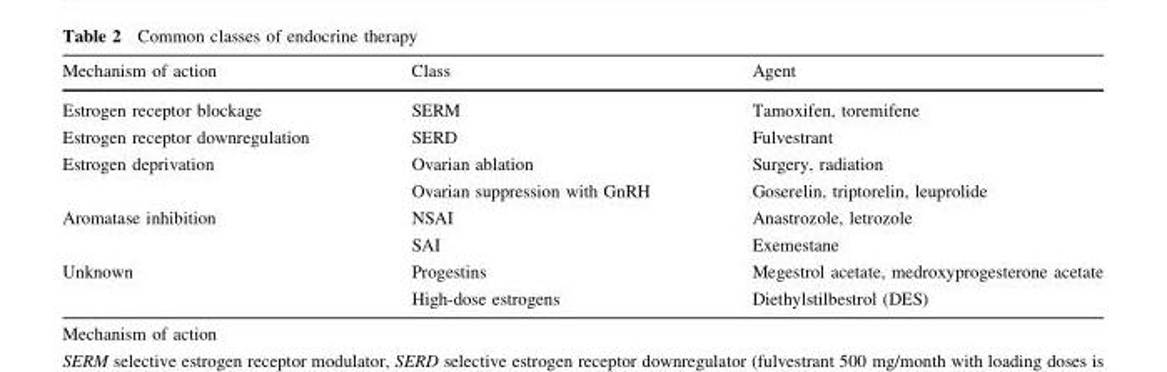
<table><thead><tr><td>Mechanism of action</td><td>Class</td><td>Agent</td></tr></thead><tbody><tr><td>Estrogen receptor blockage</td><td>SERM</td><td>Tamoxifen, toremifene</td></tr><tr><td>Estrogen receptor downregulation</td><td>SERD</td><td>Fulvestrant</td></tr><tr><td rowspan="2">Estrogen deprivation</td><td>Ovarian ablation</td><td>Surgery, radiation</td></tr><tr><td>Ovarian suppression with GnRH</td><td>Goserelin, triptorelin, leuprolide</td></tr><tr><td rowspan="2">Aromatase inhibition</td><td>NSAI</td><td>Anastrozole, letrozole</td></tr><tr><td>SAI</td><td>Exemestane</td></tr><tr><td rowspan="2">Unknown</td><td>Progestins</td><td>Megestrol acetate, medroxyprogesterone acetate</td></tr><tr><td>High-dose estrogens</td><td>Diethylstilbestrol (DES)</td></tr></tbody></table>